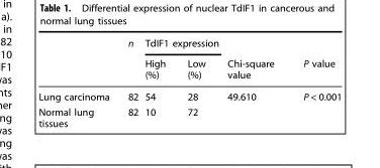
<table><thead><tr><td rowspan="2"></td><td rowspan="2">n</td><td colspan="2">TdIF1 expression</td><td rowspan="2">Chi-square value</td><td rowspan="2">P value</td></tr><tr><td>High (%)</td><td>Low (%)</td></tr></thead><tbody><tr><td>Lung carcinoma</td><td>82</td><td>54</td><td>28</td><td rowspan="2">49.610</td><td rowspan="2">P &lt; 0.001</td></tr><tr><td>Normal lung tissues</td><td>82</td><td>10</td><td>72</td></tr></tbody></table>